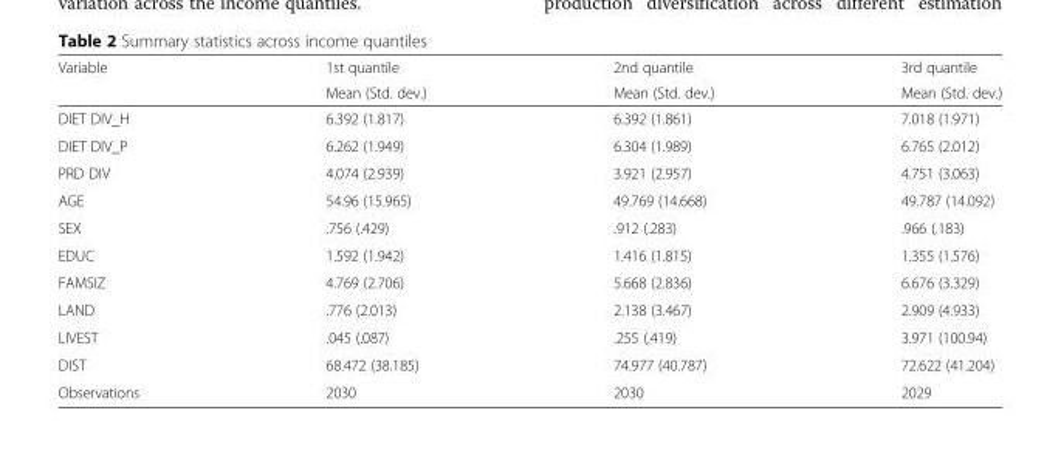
<table><thead><tr><td rowspan="2">Variable</td><td rowspan="2">1st quantile Mean (Std. dev.)</td><td rowspan="2">2nd quantile Mean (Std. dev.)</td><td rowspan="2">3rd quantile Mean (Std. dev.)</td></tr><tr></tr></thead><tbody><tr><td>DIET DIV_H</td><td>6.392 (1.817)</td><td>6.392 (1.861)</td><td>7.018 (1.971)</td></tr><tr><td>DIET DIV_P</td><td>6.262 (1.949)</td><td>6.304 (1.989)</td><td>6.765 (2.012)</td></tr><tr><td>PRD DIV</td><td>4.074 (2.939)</td><td>3.921 (2.957)</td><td>4.751 (3.063)</td></tr><tr><td>AGE</td><td>54.96 (15.965)</td><td>49.769 (14.668)</td><td>49.787 (14.092)</td></tr><tr><td>SEX</td><td>.756 (.429)</td><td>.912 (.283)</td><td>.966 (.183)</td></tr><tr><td>EDUC</td><td>1.592 (1.942)</td><td>1.416 (1.815)</td><td>1.355 (1.576)</td></tr><tr><td>FAMSIZ</td><td>4.769 (2.706)</td><td>5.668 (2.836)</td><td>6.676 (3.329)</td></tr><tr><td>LAND</td><td>.776 (2.013)</td><td>2.138 (3.467)</td><td>2.909 (4.933)</td></tr><tr><td>LIVEST</td><td>.045 (.087)</td><td>.255 (.419)</td><td>3.971 (100.94)</td></tr><tr><td>DIST</td><td>68.472 (38.185)</td><td>74.977 (40.787)</td><td>72.622 (41.204)</td></tr><tr><td>Observations</td><td>2030</td><td>2030</td><td>2029</td></tr></tbody></table>